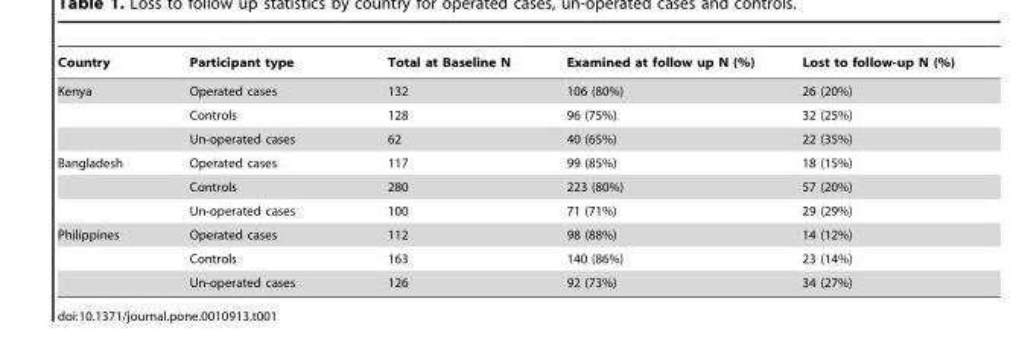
<table><thead><tr><td>Country</td><td>Participant type</td><td>Total at Baseline N</td><td>Examined at follow up N (%)</td><td>Lost to follow-up N (%)</td></tr></thead><tbody><tr><td rowspan="3">Kenya</td><td>Operated cases</td><td>132</td><td>106 (80%)</td><td>26 (20%)</td></tr><tr><td>Controls</td><td>128</td><td>96 (75%)</td><td>32 (25%)</td></tr><tr><td>Un-operated cases</td><td>62</td><td>40 (65%)</td><td>22 (35%)</td></tr><tr><td rowspan="3">Bangladesh</td><td>Operated cases</td><td>117</td><td>99 (85%)</td><td>18 (15%)</td></tr><tr><td>Controls</td><td>280</td><td>223 (80%)</td><td>57 (20%)</td></tr><tr><td>Un-operated cases</td><td>100</td><td>71 (71%)</td><td>29 (29%)</td></tr><tr><td rowspan="3">Philippines</td><td>Operated cases</td><td>112</td><td>98 (88%)</td><td>14 (12%)</td></tr><tr><td>Controls</td><td>163</td><td>140 (86%)</td><td>23 (14%)</td></tr><tr><td>Un-operated cases</td><td>126</td><td>92 (73%)</td><td>34 (27%)</td></tr></tbody></table>